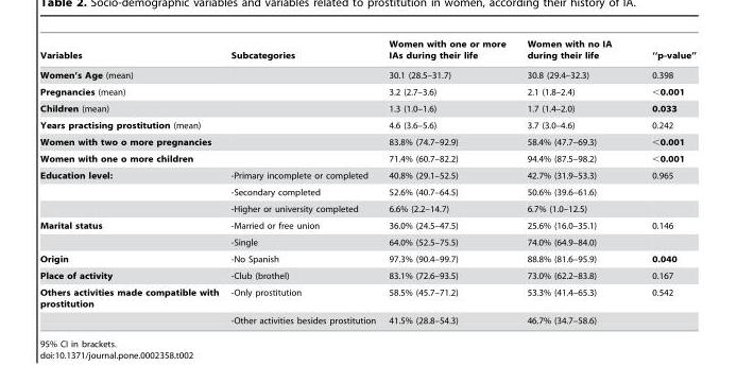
<table><thead><tr><td>Variables</td><td>Subcategories</td><td>Women with one or more IAs during their life</td><td>Women with no IA during their life</td><td>‘‘p-value’’</td></tr></thead><tbody><tr><td>Women’s Age (mean)</td><td></td><td>30.1 (28.5–31.7)</td><td>30.8 (29.4–32.3)</td><td>0.398</td></tr><tr><td>Pregnancies (mean)</td><td></td><td>3.2 (2.7–3.6)</td><td>2.1 (1.8–2.4)</td><td>&lt;0.001</td></tr><tr><td>Children (mean)</td><td></td><td>1.3 (1.0–1.6)</td><td>1.7 (1.4–2.0)</td><td>0.033</td></tr><tr><td>Years practising prostitution (mean)</td><td></td><td>4.6 (3.6–5.6)</td><td>3.7 (3.0–4.6)</td><td>0.242</td></tr><tr><td>Women with two o more pregnancies</td><td></td><td>83.8% (74.7–92.9)</td><td>58.4% (47.7–69.3)</td><td>&lt;0.001</td></tr><tr><td>Women with one o more children</td><td></td><td>71.4% (60.7–82.2)</td><td>94.4% (87.5–98.2)</td><td>&lt;0.001</td></tr><tr><td rowspan="3">Education level:</td><td>-Primary incomplete or completed</td><td>40.8% (29.1–52.5)</td><td>42.7% (31.9–53.3)</td><td>0.965</td></tr><tr><td>-Secondary completed</td><td>52.6% (40.7–64.5)</td><td>50.6% (39.6–61.6)</td><td></td></tr><tr><td>-Higher or university completed</td><td>6.6% (2.2–14.7)</td><td>6.7% (1.0–12.5)</td><td></td></tr><tr><td rowspan="2">Marital status</td><td>-Married or free union</td><td>36.0% (24.5–47.5)</td><td>25.6% (16.0–35.1)</td><td>0.146</td></tr><tr><td>-Single</td><td>64.0% (52.5–75.5)</td><td>74.0% (64.9–84.0)</td><td></td></tr><tr><td>Origin</td><td>-No Spanish</td><td>97.3% (90.4–99.7)</td><td>88.8% (81.6–95.9)</td><td>0.040</td></tr><tr><td>Place of activity</td><td>-Club (brothel)</td><td>83.1% (72.6–93.5)</td><td>73.0% (62.2–83.8)</td><td>0.167</td></tr><tr><td rowspan="2">Others activities made compatible with prostitution</td><td>-Only prostitution</td><td>58.5% (45.7–71.2)</td><td>53.3% (41.4–65.3)</td><td>0.542</td></tr><tr><td>-Other activities besides prostitution</td><td>41.5% (28.8–54.3)</td><td>46.7% (34.7–58.6)</td><td></td></tr></tbody></table>